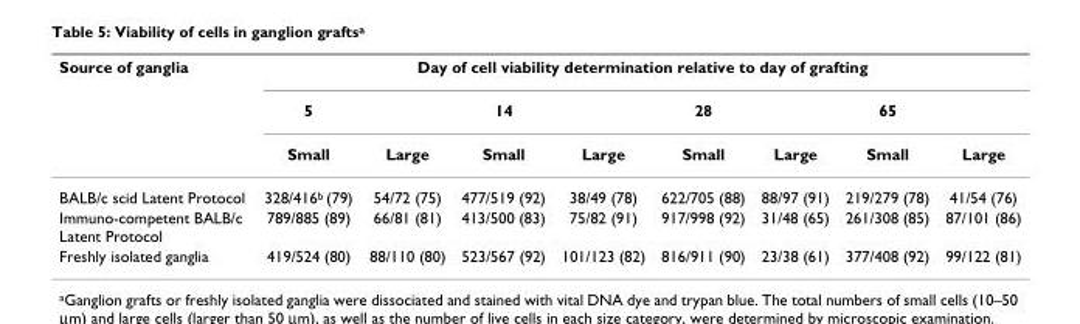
<table><thead><tr><td rowspan="3">Source of ganglia</td><td colspan="8">Day of cell viability determination relative to day of grafting</td></tr><tr><td rowspan="2">5 Small</td><td rowspan="2">Large</td><td rowspan="2">14 Small</td><td rowspan="2">Large</td><td rowspan="2">28 Small</td><td rowspan="2">Large</td><td rowspan="2">65 Small</td><td rowspan="2">Large</td></tr><tr></tr></thead><tbody><tr><td>BALB/c scid Latent Protocol</td><td>328/416<sup>b</sup> (79)</td><td>54/72 (75)</td><td>477/519 (92)</td><td>38/49 (78)</td><td>622/705 (88)</td><td>88/97 (91)</td><td>219/279 (78)</td><td>41/54 (76)</td></tr><tr><td>Immuno-competent BALB/c Latent Protocol</td><td>789/885 (89)</td><td>66/81 (81)</td><td>413/500 (83)</td><td>75/82 (91)</td><td>917/998 (92)</td><td>31/48 (65)</td><td>261/308 (85)</td><td>87/101 (86)</td></tr><tr><td>Freshly isolated ganglia</td><td>419/524 (80)</td><td>88/110 (80)</td><td>523/567 (92)</td><td>101/123 (82)</td><td>816/911 (90)</td><td>23/38 (61)</td><td>377/408 (92)</td><td>99/122 (81)</td></tr></tbody></table>